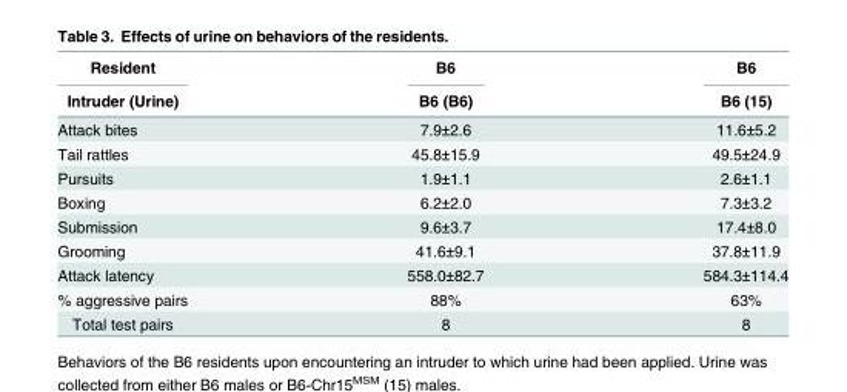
<table><thead><tr><td rowspan="2">Resident Intruder (Urine)</td><td rowspan="2">B6 B6 (B6)</td><td rowspan="2">B6 B6 (15)</td></tr><tr></tr></thead><tbody><tr><td>Attack bites</td><td>7.9±2.6</td><td>11.6±5.2</td></tr><tr><td>Tail rattles</td><td>45.8±15.9</td><td>49.5±24.9</td></tr><tr><td>Pursuits</td><td>1.9±1.1</td><td>2.6±1.1</td></tr><tr><td>Boxing</td><td>6.2±2.0</td><td>7.3±3.2</td></tr><tr><td>Submission</td><td>9.6±3.7</td><td>17.4±8.0</td></tr><tr><td>Grooming</td><td>41.6±9.1</td><td>37.8±11.9</td></tr><tr><td>Attack latency</td><td>558.0±82.7</td><td>584.3±114.4</td></tr><tr><td>% aggressive pairs</td><td>88%</td><td>63%</td></tr><tr><td>Total test pairs</td><td>8</td><td>8</td></tr></tbody></table>